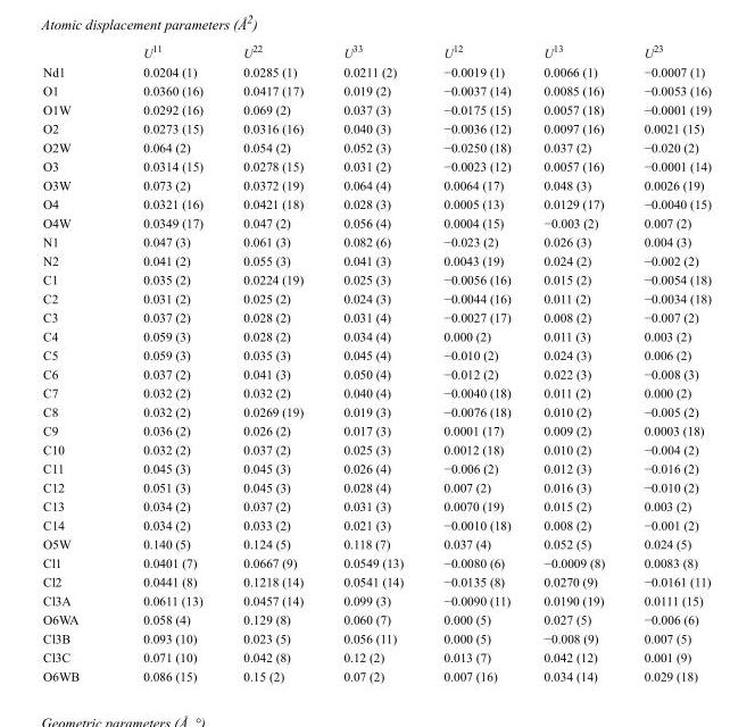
<table><thead><tr><td></td><td>U<sup>11</sup></td><td>U<sup>22</sup></td><td>U<sup>33</sup></td><td>U<sup>12</sup></td><td>U<sup>13</sup></td><td>U<sup>23</sup></td></tr></thead><tbody><tr><td>Nd1</td><td>0.0204 (1)</td><td>0.0285 (1)</td><td>0.0211 (2)</td><td>−0.0019 (1)</td><td>0.0066 (1)</td><td>−0.0007 (1)</td></tr><tr><td>O1</td><td>0.0360 (16)</td><td>0.0417 (17)</td><td>0.019 (2)</td><td>−0.0037 (14)</td><td>0.0085 (16)</td><td>−0.0053 (16)</td></tr><tr><td>O1W</td><td>0.0292 (16)</td><td>0.069 (2)</td><td>0.037 (3)</td><td>−0.0175 (15)</td><td>0.0057 (18)</td><td>−0.0001 (19)</td></tr><tr><td>O2</td><td>0.0273 (15)</td><td>0.0316 (16)</td><td>0.040 (3)</td><td>−0.0036 (12)</td><td>0.0097 (16)</td><td>0.0021 (15)</td></tr><tr><td>O2W</td><td>0.064 (2)</td><td>0.054 (2)</td><td>0.052 (3)</td><td>−0.0250 (18)</td><td>0.037 (2)</td><td>−0.020 (2)</td></tr><tr><td>O3</td><td>0.0314 (15)</td><td>0.0278 (15)</td><td>0.031 (2)</td><td>−0.0023 (12)</td><td>0.0057 (16)</td><td>−0.0001 (14)</td></tr><tr><td>O3W</td><td>0.073 (2)</td><td>0.0372 (19)</td><td>0.064 (4)</td><td>0.0064 (17)</td><td>0.048 (3)</td><td>0.0026 (19)</td></tr><tr><td>O4</td><td>0.0321 (16)</td><td>0.0421 (18)</td><td>0.028 (3)</td><td>0.0005 (13)</td><td>0.0129 (17)</td><td>−0.0040 (15)</td></tr><tr><td>O4W</td><td>0.0349 (17)</td><td>0.047 (2)</td><td>0.056 (4)</td><td>0.0004 (15)</td><td>−0.003 (2)</td><td>0.007 (2)</td></tr><tr><td>N1</td><td>0.047 (3)</td><td>0.061 (3)</td><td>0.082 (6)</td><td>−0.023 (2)</td><td>0.026 (3)</td><td>0.004 (3)</td></tr><tr><td>N2</td><td>0.041 (2)</td><td>0.055 (3)</td><td>0.041 (3)</td><td>0.0043 (19)</td><td>0.024 (2)</td><td>−0.002 (2)</td></tr><tr><td>C1</td><td>0.035 (2)</td><td>0.0224 (19)</td><td>0.025 (3)</td><td>−0.0056 (16)</td><td>0.015 (2)</td><td>−0.0054 (18)</td></tr><tr><td>C2</td><td>0.031 (2)</td><td>0.025 (2)</td><td>0.024 (3)</td><td>−0.0044 (16)</td><td>0.011 (2)</td><td>−0.0034 (18)</td></tr><tr><td>C3</td><td>0.037 (2)</td><td>0.028 (2)</td><td>0.031 (4)</td><td>−0.0027 (17)</td><td>0.008 (2)</td><td>−0.007 (2)</td></tr><tr><td>C4</td><td>0.059 (3)</td><td>0.028 (2)</td><td>0.034 (4)</td><td>0.000 (2)</td><td>0.011 (3)</td><td>0.003 (2)</td></tr><tr><td>C5</td><td>0.059 (3)</td><td>0.035 (3)</td><td>0.045 (4)</td><td>−0.010 (2)</td><td>0.024 (3)</td><td>0.006 (2)</td></tr><tr><td>C6</td><td>0.037 (2)</td><td>0.041 (3)</td><td>0.050 (4)</td><td>−0.012 (2)</td><td>0.022 (3)</td><td>−0.008 (3)</td></tr><tr><td>C7</td><td>0.032 (2)</td><td>0.032 (2)</td><td>0.040 (4)</td><td>−0.0040 (18)</td><td>0.011 (2)</td><td>0.000 (2)</td></tr><tr><td>C8</td><td>0.032 (2)</td><td>0.0269 (19)</td><td>0.019 (3)</td><td>−0.0076 (18)</td><td>0.010 (2)</td><td>−0.005 (2)</td></tr><tr><td>C9</td><td>0.036 (2)</td><td>0.026 (2)</td><td>0.017 (3)</td><td>0.0001 (17)</td><td>0.009 (2)</td><td>0.0003 (18)</td></tr><tr><td>C10</td><td>0.032 (2)</td><td>0.037 (2)</td><td>0.025 (3)</td><td>0.0012 (18)</td><td>0.010 (2)</td><td>−0.004 (2)</td></tr><tr><td>C11</td><td>0.045 (3)</td><td>0.045 (3)</td><td>0.026 (4)</td><td>−0.006 (2)</td><td>0.012 (3)</td><td>−0.016 (2)</td></tr><tr><td>C12</td><td>0.051 (3)</td><td>0.045 (3)</td><td>0.028 (4)</td><td>0.007 (2)</td><td>0.016 (3)</td><td>−0.010 (2)</td></tr><tr><td>C13</td><td>0.034 (2)</td><td>0.037 (2)</td><td>0.031 (3)</td><td>0.0070 (19)</td><td>0.015 (2)</td><td>0.003 (2)</td></tr><tr><td>C14</td><td>0.034 (2)</td><td>0.033 (2)</td><td>0.021 (3)</td><td>−0.0010 (18)</td><td>0.008 (2)</td><td>−0.001 (2)</td></tr><tr><td>O5W</td><td>0.140 (5)</td><td>0.124 (5)</td><td>0.118 (7)</td><td>0.037 (4)</td><td>0.052 (5)</td><td>0.024 (5)</td></tr><tr><td>Cl1</td><td>0.0401 (7)</td><td>0.0667 (9)</td><td>0.0549 (13)</td><td>−0.0080 (6)</td><td>−0.0009 (8)</td><td>0.0083 (8)</td></tr><tr><td>Cl2</td><td>0.0441 (8)</td><td>0.1218 (14)</td><td>0.0541 (14)</td><td>−0.0135 (8)</td><td>0.0270 (9)</td><td>−0.0161 (11)</td></tr><tr><td>Cl3A</td><td>0.0611 (13)</td><td>0.0457 (14)</td><td>0.099 (3)</td><td>−0.0090 (11)</td><td>0.0190 (19)</td><td>0.0111 (15)</td></tr><tr><td>O6WA</td><td>0.058 (4)</td><td>0.129 (8)</td><td>0.060 (7)</td><td>0.000 (5)</td><td>0.027 (5)</td><td>−0.006 (6)</td></tr><tr><td>Cl3B</td><td>0.093 (10)</td><td>0.023 (5)</td><td>0.056 (11)</td><td>0.000 (5)</td><td>−0.008 (9)</td><td>0.007 (5)</td></tr><tr><td>Cl3C</td><td>0.071 (10)</td><td>0.042 (8)</td><td>0.12 (2)</td><td>0.013 (7)</td><td>0.042 (12)</td><td>0.001 (9)</td></tr><tr><td>O6WB</td><td>0.086 (15)</td><td>0.15 (2)</td><td>0.07 (2)</td><td>0.007 (16)</td><td>0.034 (14)</td><td>0.029 (18)</td></tr></tbody></table>